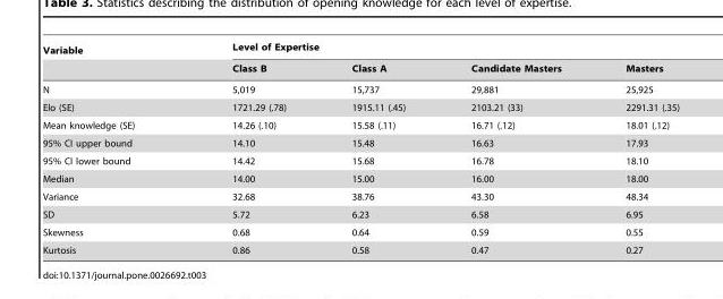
<table><thead><tr><td rowspan="2">Variable</td><td colspan="4">Level of Expertise</td></tr><tr><td>Class B</td><td>Class A</td><td>Candidate Masters</td><td>Masters</td></tr></thead><tbody><tr><td>N</td><td>5,019</td><td>15,737</td><td>29,881</td><td>25,925</td></tr><tr><td>Elo (SE)</td><td>1721.29 (.78)</td><td>1915.11 (.45)</td><td>2103.21 (33)</td><td>2291.31 (.35)</td></tr><tr><td>Mean knowledge (SE)</td><td>14.26 (.10)</td><td>15.58 (.11)</td><td>16.71 (.12)</td><td>18.01 (.12)</td></tr><tr><td>95% CI upper bound</td><td>14.10</td><td>15.48</td><td>16.63</td><td>17.93</td></tr><tr><td>95% CI lower bound</td><td>14.42</td><td>15.68</td><td>16.78</td><td>18.10</td></tr><tr><td>Median</td><td>14.00</td><td>15.00</td><td>16.00</td><td>18.00</td></tr><tr><td>Variance</td><td>32.68</td><td>38.76</td><td>43.30</td><td>48.34</td></tr><tr><td>SD</td><td>5.72</td><td>6.23</td><td>6.58</td><td>6.95</td></tr><tr><td>Skewness</td><td>0.68</td><td>0.64</td><td>0.59</td><td>0.55</td></tr><tr><td>Kurtosis</td><td>0.86</td><td>0.58</td><td>0.47</td><td>0.27</td></tr></tbody></table>